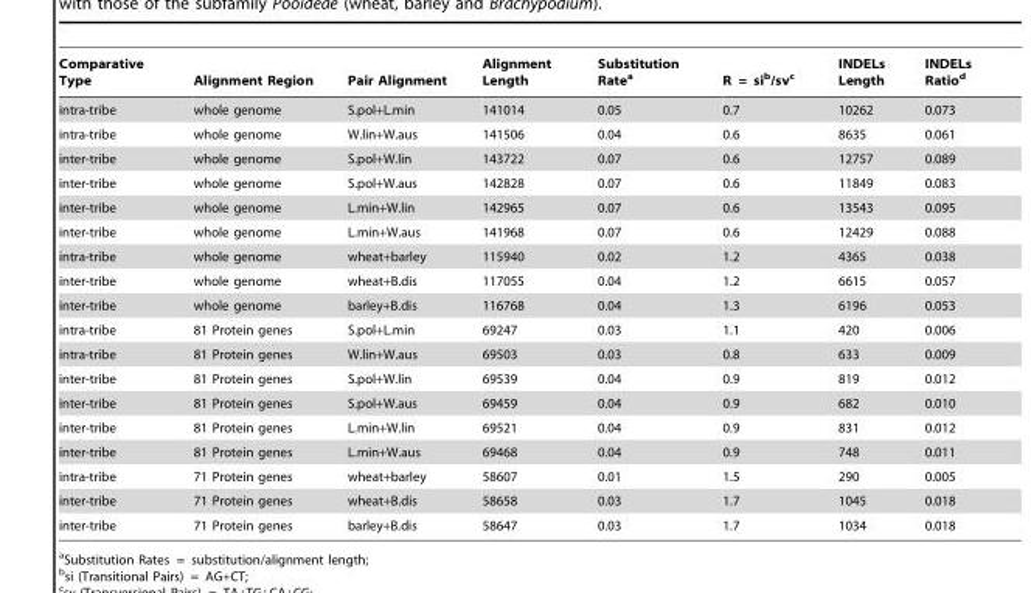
<table><thead><tr><td>Comparative Type</td><td>Alignment Region</td><td>Pair Alignment</td><td>Alignment Length</td><td>Substitution Rate<sup>a</sup></td><td>R = si<sup>b</sup>/sv<sup>c</sup></td><td>INDELs Length</td><td>INDELs Ratio<sup>d</sup></td></tr></thead><tbody><tr><td>intra-tribe</td><td>whole genome</td><td>S.pol+L.min</td><td>141014</td><td>0.05</td><td>0.7</td><td>10262</td><td>0.073</td></tr><tr><td>intra-tribe</td><td>whole genome</td><td>W.lin+W.aus</td><td>141506</td><td>0.04</td><td>0.6</td><td>8635</td><td>0.061</td></tr><tr><td>inter-tribe</td><td>whole genome</td><td>S.pol+W.lin</td><td>143722</td><td>0.07</td><td>0.6</td><td>12757</td><td>0.089</td></tr><tr><td>inter-tribe</td><td>whole genome</td><td>S.pol+W.aus</td><td>142828</td><td>0.07</td><td>0.6</td><td>11849</td><td>0.083</td></tr><tr><td>inter-tribe</td><td>whole genome</td><td>L.min+W.lin</td><td>142965</td><td>0.07</td><td>0.6</td><td>13543</td><td>0.095</td></tr><tr><td>inter-tribe</td><td>whole genome</td><td>L.min+W.aus</td><td>141968</td><td>0.07</td><td>0.6</td><td>12429</td><td>0.088</td></tr><tr><td>intra-tribe</td><td>whole genome</td><td>wheat+barley</td><td>115940</td><td>0.02</td><td>1.2</td><td>4365</td><td>0.038</td></tr><tr><td>inter-tribe</td><td>whole genome</td><td>wheat+B.dis</td><td>117055</td><td>0.04</td><td>1.2</td><td>6615</td><td>0.057</td></tr><tr><td>inter-tribe</td><td>whole genome</td><td>barley+B.dis</td><td>116768</td><td>0.04</td><td>1.3</td><td>6196</td><td>0.053</td></tr><tr><td>intra-tribe</td><td>81 Protein genes</td><td>S.pol+L.min</td><td>69247</td><td>0.03</td><td>1.1</td><td>420</td><td>0.006</td></tr><tr><td>intra-tribe</td><td>81 Protein genes</td><td>W.lin+W.aus</td><td>69503</td><td>0.03</td><td>0.8</td><td>633</td><td>0.009</td></tr><tr><td>inter-tribe</td><td>81 Protein genes</td><td>S.pol+W.lin</td><td>69539</td><td>0.04</td><td>0.9</td><td>819</td><td>0.012</td></tr><tr><td>inter-tribe</td><td>81 Protein genes</td><td>S.pol+W.aus</td><td>69459</td><td>0.04</td><td>0.9</td><td>682</td><td>0.010</td></tr><tr><td>inter-tribe</td><td>81 Protein genes</td><td>L.min+W.lin</td><td>69521</td><td>0.04</td><td>0.9</td><td>831</td><td>0.012</td></tr><tr><td>inter-tribe</td><td>81 Protein genes</td><td>L.min+W.aus</td><td>69468</td><td>0.04</td><td>0.9</td><td>748</td><td>0.011</td></tr><tr><td>intra-tribe</td><td>71 Protein genes</td><td>wheat+barley</td><td>58607</td><td>0.01</td><td>1.5</td><td>290</td><td>0.005</td></tr><tr><td>inter-tribe</td><td>71 Protein genes</td><td>wheat+B.dis</td><td>58658</td><td>0.03</td><td>1.7</td><td>1045</td><td>0.018</td></tr><tr><td>inter-tribe</td><td>71 Protein genes</td><td>barley+B.dis</td><td>58647</td><td>0.03</td><td>1.7</td><td>1034</td><td>0.018</td></tr></tbody></table>